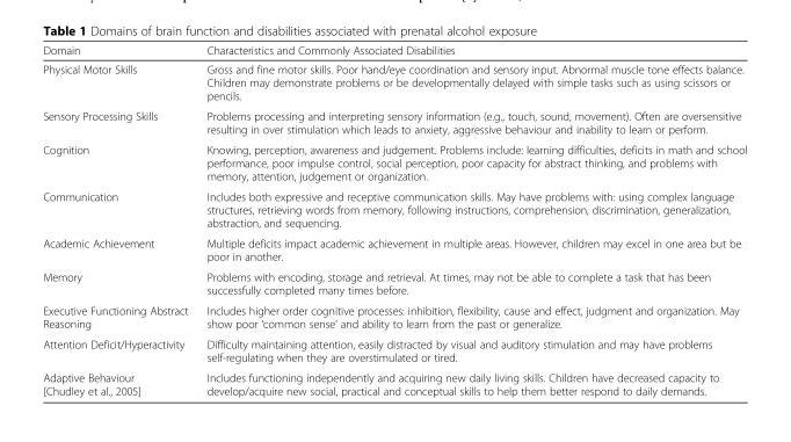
<table><thead><tr><td>Domain</td><td>Characteristics and Commonly Associated Disabilities</td></tr></thead><tbody><tr><td>Physical Motor Skills</td><td>Gross and fine motor skills. Poor hand/eye coordination and sensory input. Abnormal muscle tone effects balance. Children may demonstrate problems or be developmentally delayed with simple tasks such as using scissors or pencils.</td></tr><tr><td>Sensory Processing Skills</td><td>Problems processing and interpreting sensory information (e.g., touch, sound, movement). Often are oversensitive resulting in over stimulation which leads to anxiety, aggressive behaviour and inability to learn or perform.</td></tr><tr><td>Cognition</td><td>Knowing, perception, awareness and judgement. Problems include: learning difficulties, deficits in math and school performance, poor impulse control, social perception, poor capacity for abstract thinking, and problems with memory, attention, judgement or organization.</td></tr><tr><td>Communication</td><td>Includes both expressive and receptive communication skills. May have problems with: using complex language structures, retrieving words from memory, following instructions, comprehension, discrimination, generalization, abstraction, and sequencing.</td></tr><tr><td>Academic Achievement</td><td>Multiple deficits impact academic achievement in multiple areas. However, children may excel in one area but be poor in another.</td></tr><tr><td>Memory</td><td>Problems with encoding, storage and retrieval. At times, may not be able to complete a task that has been successfully completed many times before.</td></tr><tr><td>Executive Functioning Abstract Reasoning</td><td>Includes higher order cognitive processes: inhibition, flexibility, cause and effect, judgment and organization. May show poor ‘common sense’ and ability to learn from the past or generalize.</td></tr><tr><td>Attention Deficit/Hyperactivity</td><td>Difficulty maintaining attention, easily distracted by visual and auditory stimulation and may have problems self-regulating when they are overstimulated or tired.</td></tr><tr><td>Adaptive Behaviour [Chudley et al., 2005]</td><td>Includes functioning independently and acquiring new daily living skills. Children have decreased capacity to develop/acquire new social, practical and conceptual skills to help them better respond to daily demands.</td></tr></tbody></table>